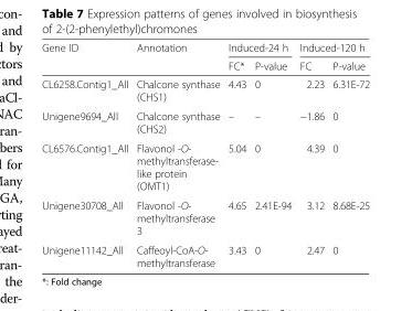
<table><thead><tr><td rowspan="2">Gene ID</td><td rowspan="2">Annotation</td><td colspan="2">Induced-24 h</td><td colspan="2">Induced-120 h</td></tr><tr><td>FC*</td><td>P-value</td><td>FC</td><td>P-value</td></tr></thead><tbody><tr><td>CL6258.Contig1_All</td><td>Chalcone synthase (CHS1)</td><td>4.43</td><td>0</td><td>2.23</td><td>6.31E-72</td></tr><tr><td>Unigene9694_All</td><td>Chalcone synthase (CHS2)</td><td>–</td><td>–</td><td>−1.86</td><td>0</td></tr><tr><td>CL6576.Contig1_All</td><td>Flavonol -O- methyltransferase- like protein (OMT1)</td><td>5.04</td><td>0</td><td>4.39</td><td>0</td></tr><tr><td>Unigene30708_All</td><td>Flavonol -O- methyltransferase 3</td><td>4.65</td><td>2.41E-94</td><td>3.12</td><td>8.68E-25</td></tr><tr><td>Unigene11142_All</td><td>Caffeoyl-CoA-O- methyltransferase</td><td>3.43</td><td>0</td><td>2.47</td><td>0</td></tr></tbody></table>